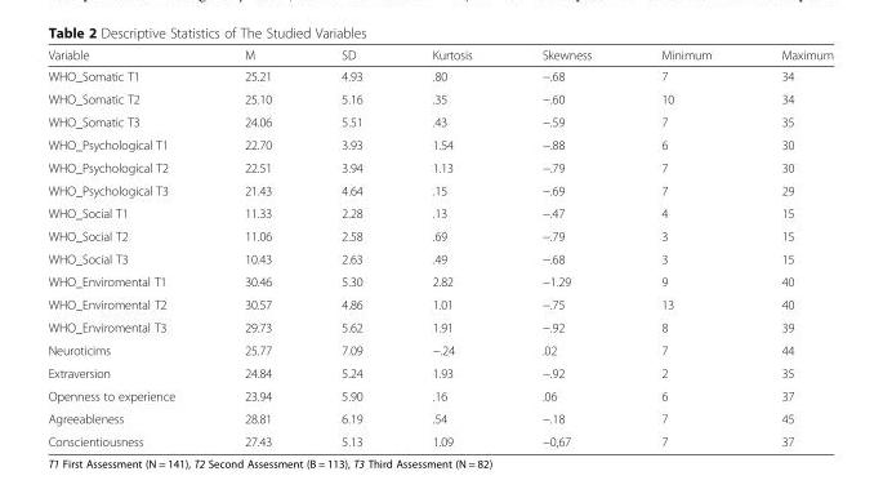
<table><thead><tr><td>Variable</td><td>M</td><td>SD</td><td>Kurtosis</td><td>Skewness</td><td>Minimum</td><td>Maximum</td></tr></thead><tbody><tr><td>WHO_Somatic T1</td><td>25.21</td><td>4.93</td><td>.80</td><td>−.68</td><td>7</td><td>34</td></tr><tr><td>WHO_Somatic T2</td><td>25.10</td><td>5.16</td><td>.35</td><td>−.60</td><td>10</td><td>34</td></tr><tr><td>WHO_Somatic T3</td><td>24.06</td><td>5.51</td><td>.43</td><td>−.59</td><td>7</td><td>35</td></tr><tr><td>WHO_Psychological T1</td><td>22.70</td><td>3.93</td><td>1.54</td><td>−.88</td><td>6</td><td>30</td></tr><tr><td>WHO_Psychological T2</td><td>22.51</td><td>3.94</td><td>1.13</td><td>−.79</td><td>7</td><td>30</td></tr><tr><td>WHO_Psychological T3</td><td>21.43</td><td>4.64</td><td>.15</td><td>−.69</td><td>7</td><td>29</td></tr><tr><td>WHO_Social T1</td><td>11.33</td><td>2.28</td><td>.13</td><td>−.47</td><td>4</td><td>15</td></tr><tr><td>WHO_Social T2</td><td>11.06</td><td>2.58</td><td>.69</td><td>−.79</td><td>3</td><td>15</td></tr><tr><td>WHO_Social T3</td><td>10.43</td><td>2.63</td><td>.49</td><td>−.68</td><td>3</td><td>15</td></tr><tr><td>WHO_Enviromental T1</td><td>30.46</td><td>5.30</td><td>2.82</td><td>−1.29</td><td>9</td><td>40</td></tr><tr><td>WHO_Enviromental T2</td><td>30.57</td><td>4.86</td><td>1.01</td><td>−.75</td><td>13</td><td>40</td></tr><tr><td>WHO_Enviromental T3</td><td>29.73</td><td>5.62</td><td>1.91</td><td>−.92</td><td>8</td><td>39</td></tr><tr><td>Neuroticims</td><td>25.77</td><td>7.09</td><td>−.24</td><td>.02</td><td>7</td><td>44</td></tr><tr><td>Extraversion</td><td>24.84</td><td>5.24</td><td>1.93</td><td>−.92</td><td>2</td><td>35</td></tr><tr><td>Openness to experience</td><td>23.94</td><td>5.90</td><td>.16</td><td>.06</td><td>6</td><td>37</td></tr><tr><td>Agreeableness</td><td>28.81</td><td>6.19</td><td>.54</td><td>−.18</td><td>7</td><td>45</td></tr><tr><td>Conscientiousness</td><td>27.43</td><td>5.13</td><td>1.09</td><td>−0,67</td><td>7</td><td>37</td></tr></tbody></table>